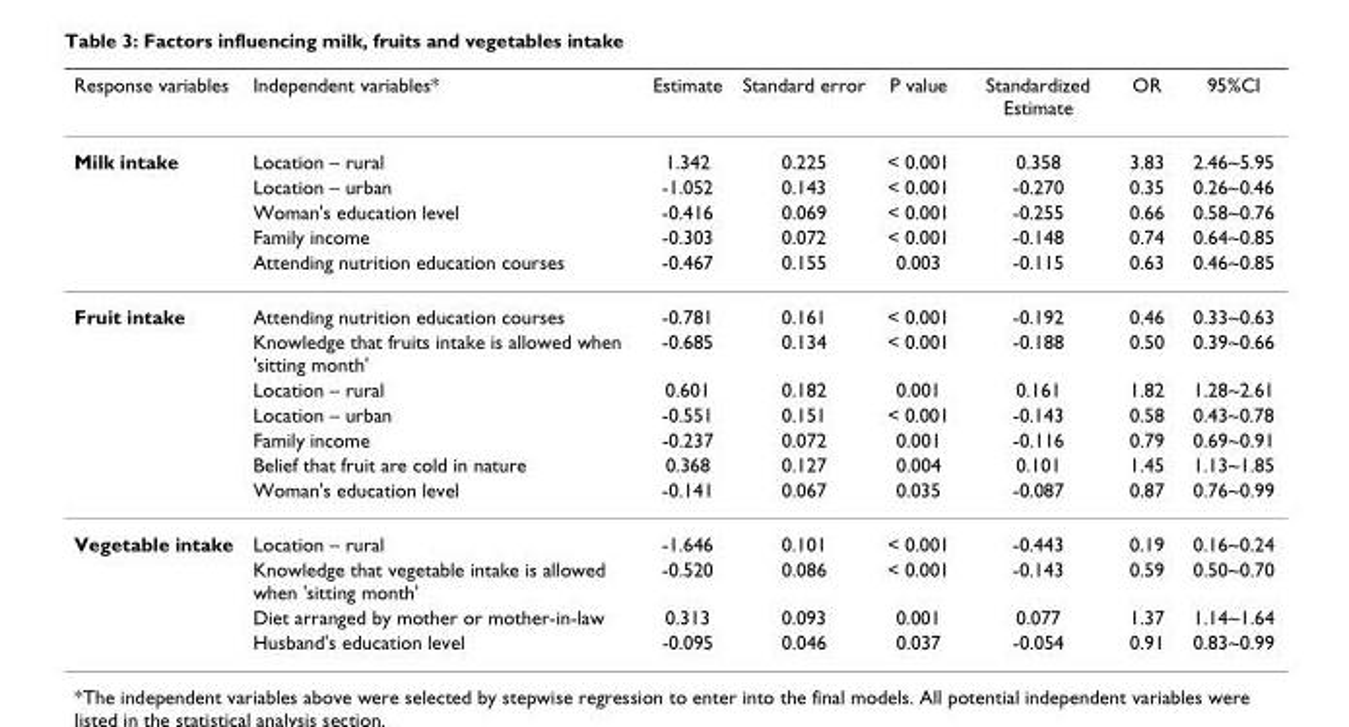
<table><thead><tr><td>Response variables</td><td>Independent variables*</td><td>Estimate</td><td>Standard error</td><td>P value</td><td>Standardized Estimate</td><td>OR</td><td>95%CI</td></tr></thead><tbody><tr><td rowspan="5">Milk intake</td><td>Location – rural</td><td>1.342</td><td>0.225</td><td>&lt; 0.001</td><td>0.358</td><td>3.83</td><td>2.46~5.95</td></tr><tr><td>Location – urban</td><td>-1.052</td><td>0.143</td><td>&lt; 0.001</td><td>-0.270</td><td>0.35</td><td>0.26~0.46</td></tr><tr><td>Woman&#x27;s education level</td><td>-0.416</td><td>0.069</td><td>&lt; 0.001</td><td>-0.255</td><td>0.66</td><td>0.58~0.76</td></tr><tr><td>Family income</td><td>-0.303</td><td>0.072</td><td>&lt; 0.001</td><td>-0.148</td><td>0.74</td><td>0.64~0.85</td></tr><tr><td>Attending nutrition education courses</td><td>-0.467</td><td>0.155</td><td>0.003</td><td>-0.115</td><td>0.63</td><td>0.46~0.85</td></tr><tr><td rowspan="7">Fruit intake</td><td>Attending nutrition education courses</td><td>-0.781</td><td>0.161</td><td>&lt; 0.001</td><td>-0.192</td><td>0.46</td><td>0.33~0.63</td></tr><tr><td>Knowledge that fruits intake is allowed when &#x27;sitting month&#x27;</td><td>-0.685</td><td>0.134</td><td>&lt; 0.001</td><td>-0.188</td><td>0.50</td><td>0.39~0.66</td></tr><tr><td>Location – rural</td><td>0.601</td><td>0.182</td><td>0.001</td><td>0.161</td><td>1.82</td><td>1.28~2.61</td></tr><tr><td>Location – urban</td><td>-0.551</td><td>0.151</td><td>&lt; 0.001</td><td>-0.143</td><td>0.58</td><td>0.43~0.78</td></tr><tr><td>Family income</td><td>-0.237</td><td>0.072</td><td>0.001</td><td>-0.116</td><td>0.79</td><td>0.69~0.91</td></tr><tr><td>Belief that fruit are cold in nature</td><td>0.368</td><td>0.127</td><td>0.004</td><td>0.101</td><td>1.45</td><td>1.13~1.85</td></tr><tr><td>Woman&#x27;s education level</td><td>-0.141</td><td>0.067</td><td>0.035</td><td>-0.087</td><td>0.87</td><td>0.76~0.99</td></tr><tr><td rowspan="4">Vegetable intake</td><td>Location – rural</td><td>-1.646</td><td>0.101</td><td>&lt; 0.001</td><td>-0.443</td><td>0.19</td><td>0.16~0.24</td></tr><tr><td>Knowledge that vegetable intake is allowed when &#x27;sitting month&#x27;</td><td>-0.520</td><td>0.086</td><td>&lt; 0.001</td><td>-0.143</td><td>0.59</td><td>0.50~0.70</td></tr><tr><td>Diet arranged by mother or mother-in-law</td><td>0.313</td><td>0.093</td><td>0.001</td><td>0.077</td><td>1.37</td><td>1.14~1.64</td></tr><tr><td>Husband&#x27;s education level</td><td>-0.095</td><td>0.046</td><td>0.037</td><td>-0.054</td><td>0.91</td><td>0.83~0.99</td></tr></tbody></table>